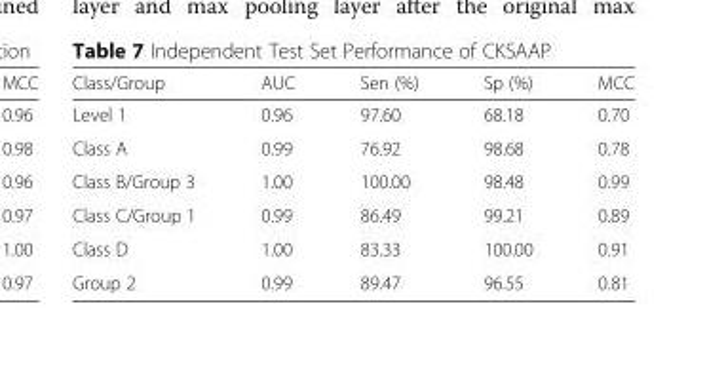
<table><thead><tr><td>Class/Group</td><td>AUC</td><td>Sen (%)</td><td>Sp (%)</td><td>MCC</td></tr></thead><tbody><tr><td>Level 1</td><td>0.96</td><td>97.60</td><td>68.18</td><td>0.70</td></tr><tr><td>Class A</td><td>0.99</td><td>76.92</td><td>98.68</td><td>0.78</td></tr><tr><td>Class B/Group 3</td><td>1.00</td><td>100.00</td><td>98.48</td><td>0.99</td></tr><tr><td>Class C/Group 1</td><td>0.99</td><td>86.49</td><td>99.21</td><td>0.89</td></tr><tr><td>Class D</td><td>1.00</td><td>83.33</td><td>100.00</td><td>0.91</td></tr><tr><td>Group 2</td><td>0.99</td><td>89.47</td><td>96.55</td><td>0.81</td></tr></tbody></table>